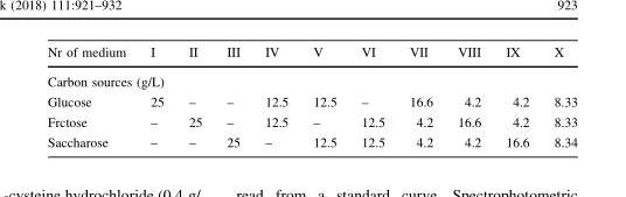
<table><thead><tr><td>Nr of medium</td><td>I</td><td>II</td><td>III</td><td>IV</td><td>V</td><td>VI</td><td>VII</td><td>VIII</td><td>IX</td><td>X</td></tr></thead><tbody><tr><td colspan="11">Carbon sources (g/L)</td></tr><tr><td>Glucose</td><td>25</td><td>–</td><td>–</td><td>12.5</td><td>12.5</td><td>–</td><td>16.6</td><td>4.2</td><td>4.2</td><td>8.33</td></tr><tr><td>Frctose</td><td>–</td><td>25</td><td>–</td><td>12.5</td><td>–</td><td>12.5</td><td>4.2</td><td>16.6</td><td>4.2</td><td>8.33</td></tr><tr><td>Saccharose</td><td>–</td><td>–</td><td>25</td><td>–</td><td>12.5</td><td>12.5</td><td>4.2</td><td>4.2</td><td>16.6</td><td>8.34</td></tr></tbody></table>